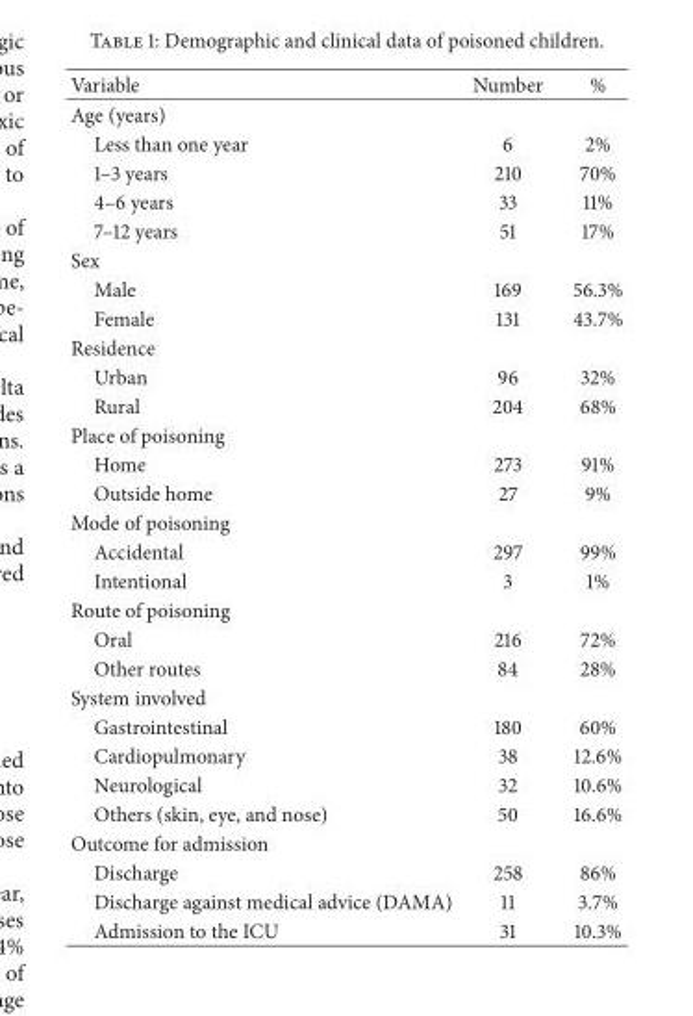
<table><thead><tr><td>Variable</td><td>Number</td><td>%</td></tr></thead><tbody><tr><td colspan="3">Age (years)</td></tr><tr><td>Less than one year</td><td>6</td><td>2%</td></tr><tr><td>1–3 years</td><td>210</td><td>70%</td></tr><tr><td>4–6 years</td><td>33</td><td>11%</td></tr><tr><td>7–12 years</td><td>51</td><td>17%</td></tr><tr><td colspan="3">Sex</td></tr><tr><td>Male</td><td>169</td><td>56.3%</td></tr><tr><td>Female</td><td>131</td><td>43.7%</td></tr><tr><td colspan="3">Residence</td></tr><tr><td>Urban</td><td>96</td><td>32%</td></tr><tr><td>Rural</td><td>204</td><td>68%</td></tr><tr><td colspan="3">Place of poisoning</td></tr><tr><td>Home</td><td>273</td><td>91%</td></tr><tr><td>Outside home</td><td>27</td><td>9%</td></tr><tr><td colspan="3">Mode of poisoning</td></tr><tr><td>Accidental</td><td>297</td><td>99%</td></tr><tr><td>Intentional</td><td>3</td><td>1%</td></tr><tr><td colspan="3">Route of poisoning</td></tr><tr><td>Oral</td><td>216</td><td>72%</td></tr><tr><td>Other routes</td><td>84</td><td>28%</td></tr><tr><td colspan="3">System involved</td></tr><tr><td>Gastrointestinal</td><td>180</td><td>60%</td></tr><tr><td>Cardiopulmonary</td><td>38</td><td>12.6%</td></tr><tr><td>Neurological</td><td>32</td><td>10.6%</td></tr><tr><td>Others (skin, eye, and nose)</td><td>50</td><td>16.6%</td></tr><tr><td colspan="3">Outcome for admission</td></tr><tr><td>Discharge</td><td>258</td><td>86%</td></tr><tr><td>Discharge against medical advice (DAMA)</td><td>11</td><td>3.7%</td></tr><tr><td>Admission to the ICU</td><td>31</td><td>10.3%</td></tr></tbody></table>